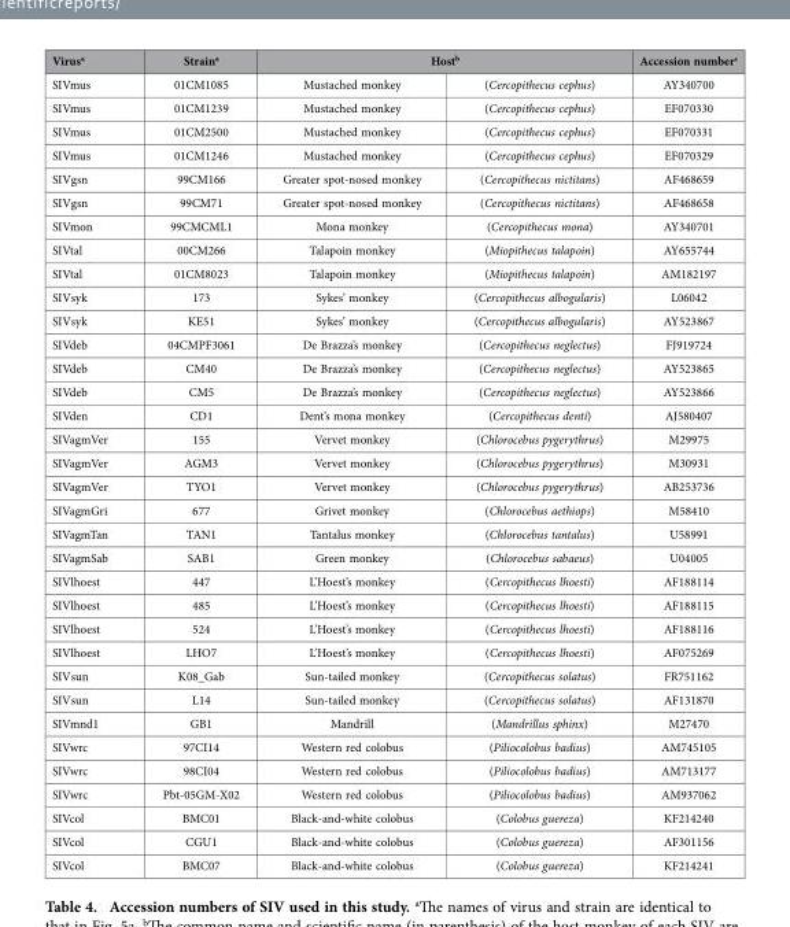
<table><thead><tr><td rowspan="2">Virus<sup>a</sup> SIVmus</td><td rowspan="2">Strain<sup>a</sup> 01CM1085</td><td colspan="2">Host<sup>b</sup></td><td rowspan="2">Accession number<sup>c</sup> AY340700</td></tr><tr><td>Mustached monkey</td><td>(Cercopithecus cephus)</td></tr></thead><tbody><tr><td>SIVmus</td><td>01CM1239</td><td>Mustached monkey</td><td>(Cercopithecus cephus)</td><td>EF070330</td></tr><tr><td>SIVmus</td><td>01CM2500</td><td>Mustached monkey</td><td>(Cercopithecus cephus)</td><td>EF070331</td></tr><tr><td>SIVmus</td><td>01CM1246</td><td>Mustached monkey</td><td>(Cercopithecus cephus)</td><td>EF070329</td></tr><tr><td>SIVgsn</td><td>99CM166</td><td>Greater spot-nosed monkey</td><td>(Cercopithecus nictitans)</td><td>AF468659</td></tr><tr><td>SIVgsn</td><td>99CM71</td><td>Greater spot-nosed monkey</td><td>(Cercopithecus nictitans)</td><td>AF468658</td></tr><tr><td>SIVmon</td><td>99CMCML1</td><td>Mona monkey</td><td>(Cercopithecus mona)</td><td>AY340701</td></tr><tr><td>SIVtal</td><td>00CM266</td><td>Talapoin monkey</td><td>(Miopithecus talapoin)</td><td>AY655744</td></tr><tr><td>SIVtal</td><td>01CM8023</td><td>Talapoin monkey</td><td>(Miopithecus talapoin)</td><td>AM182197</td></tr><tr><td>SIVsyk</td><td>173</td><td>Sykes’ monkey</td><td>(Cercopithecus albogularis)</td><td>L06042</td></tr><tr><td>SIVsyk</td><td>KE51</td><td>Sykes’ monkey</td><td>(Cercopithecus albogularis)</td><td>AY523867</td></tr><tr><td>SIVdeb</td><td>04CMPF3061</td><td>De Brazza’s monkey</td><td>(Cercopithecus neglectus)</td><td>FJ919724</td></tr><tr><td>SIVdeb</td><td>CM40</td><td>De Brazza’s monkey</td><td>(Cercopithecus neglectus)</td><td>AY523865</td></tr><tr><td>SIVdeb</td><td>CM5</td><td>De Brazza’s monkey</td><td>(Cercopithecus neglectus)</td><td>AY523866</td></tr><tr><td>SIVden</td><td>CD1</td><td>Dent’s mona monkey</td><td>(Cercopithecus denti)</td><td>AJ580407</td></tr><tr><td>SIVagmVer</td><td>155</td><td>Vervet monkey</td><td>(Chlorocebus pygerythrus)</td><td>M29975</td></tr><tr><td>SIVagmVer</td><td>AGM3</td><td>Vervet monkey</td><td>(Chlorocebus pygerythrus)</td><td>M30931</td></tr><tr><td>SIVagmVer</td><td>TYO1</td><td>Vervet monkey</td><td>(Chlorocebus pygerythrus)</td><td>AB253736</td></tr><tr><td>SIVagmGri</td><td>677</td><td>Grivet monkey</td><td>(Chlorocebus aethiops)</td><td>M58410</td></tr><tr><td>SIVagmTan</td><td>TAN1</td><td>Tantalus monkey</td><td>(Chlorocebus tantalus)</td><td>U58991</td></tr><tr><td>SIVagmSab</td><td>SAB1</td><td>Green monkey</td><td>(Chlorocebus sabaeus)</td><td>U04005</td></tr><tr><td>SIVlhoest</td><td>447</td><td>L’Hoest’s monkey</td><td>(Cercopithecus lhoesti)</td><td>AF188114</td></tr><tr><td>SIVlhoest</td><td>485</td><td>L’Hoest’s monkey</td><td>(Cercopithecus lhoesti)</td><td>AF188115</td></tr><tr><td>SIVlhoest</td><td>524</td><td>L’Hoest’s monkey</td><td>(Cercopithecus lhoesti)</td><td>AF188116</td></tr><tr><td>SIVlhoest</td><td>LHO7</td><td>L’Hoest’s monkey</td><td>(Cercopithecus lhoesti)</td><td>AF075269</td></tr><tr><td>SIVsun</td><td>K08_Gab</td><td>Sun-tailed monkey</td><td>(Cercopithecus solatus)</td><td>FR751162</td></tr><tr><td>SIVsun</td><td>L14</td><td>Sun-tailed monkey</td><td>(Cercopithecus solatus)</td><td>AF131870</td></tr><tr><td>SIVmnd1</td><td>GB1</td><td>Mandrill</td><td>(Mandrillus sphinx)</td><td>M27470</td></tr><tr><td>SIVwrc</td><td>97CI14</td><td>Western red colobus</td><td>(Piliocolobus badius)</td><td>AM745105</td></tr><tr><td>SIVwrc</td><td>98CI04</td><td>Western red colobus</td><td>(Piliocolobus badius)</td><td>AM713177</td></tr><tr><td>SIVwrc</td><td>Pbt-05GM-X02</td><td>Western red colobus</td><td>(Piliocolobus badius)</td><td>AM937062</td></tr><tr><td>SIVcol</td><td>BMC01</td><td>Black-and-white colobus</td><td>(Colobus guereza)</td><td>KF214240</td></tr><tr><td>SIVcol</td><td>CGU1</td><td>Black-and-white colobus</td><td>(Colobus guereza)</td><td>AF301156</td></tr><tr><td>SIVcol</td><td>BMC07</td><td>Black-and-white colobus</td><td>(Colobus guereza)</td><td>KF214241</td></tr></tbody></table>